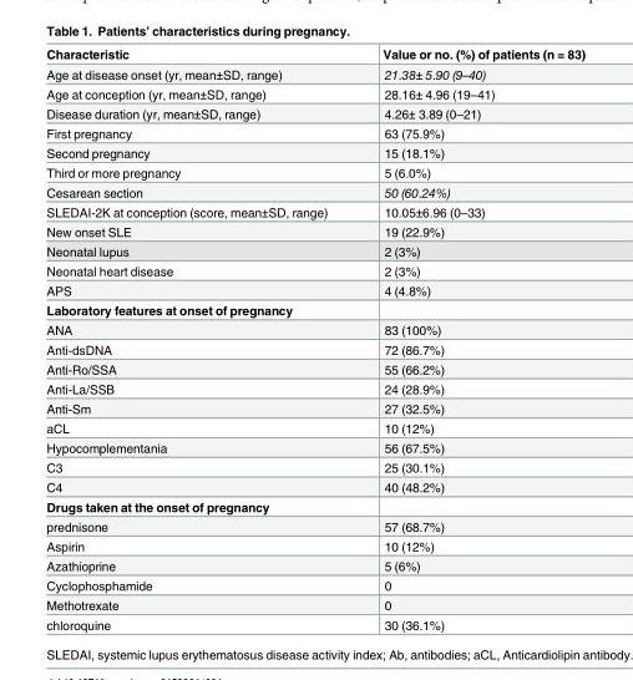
<table><thead><tr><td>Characteristic</td><td>Value or no. (%) of patients (n = 83)</td></tr></thead><tbody><tr><td>Age at disease onset (yr, mean±SD, range)</td><td>21.38± 5.90 (9–40)</td></tr><tr><td>Age at conception (yr, mean±SD, range)</td><td>28.16± 4.96 (19–41)</td></tr><tr><td>Disease duration (yr, mean±SD, range)</td><td>4.26± 3.89 (0–21)</td></tr><tr><td>First pregnancy</td><td>63 (75.9%)</td></tr><tr><td>Second pregnancy</td><td>15 (18.1%)</td></tr><tr><td>Third or more pregnancy</td><td>5 (6.0%)</td></tr><tr><td>Cesarean section</td><td>50 (60.24%)</td></tr><tr><td>SLEDAI-2K at conception (score, mean±SD, range)</td><td>10.05±6.96 (0–33)</td></tr><tr><td>New onset SLE</td><td>19 (22.9%)</td></tr><tr><td>Neonatal lupus</td><td>2 (3%)</td></tr><tr><td>Neonatal heart disease</td><td>2 (3%)</td></tr><tr><td>APS</td><td>4 (4.8%)</td></tr><tr><td colspan="2">Laboratory features at onset of pregnancy</td></tr><tr><td>ANA</td><td>83 (100%)</td></tr><tr><td>Anti-dsDNA</td><td>72 (86.7%)</td></tr><tr><td>Anti-Ro/SSA</td><td>55 (66.2%)</td></tr><tr><td>Anti-La/SSB</td><td>24 (28.9%)</td></tr><tr><td>Anti-Sm</td><td>27 (32.5%)</td></tr><tr><td>aCL</td><td>10 (12%)</td></tr><tr><td>Hypocomplementania</td><td>56 (67.5%)</td></tr><tr><td>C3</td><td>25 (30.1%)</td></tr><tr><td>C4</td><td>40 (48.2%)</td></tr><tr><td colspan="2">Drugs taken at the onset of pregnancy</td></tr><tr><td>prednisone</td><td>57 (68.7%)</td></tr><tr><td>Aspirin</td><td>10 (12%)</td></tr><tr><td>Azathioprine</td><td>5 (6%)</td></tr><tr><td>Cyclophosphamide</td><td>0</td></tr><tr><td>Methotrexate</td><td>0</td></tr><tr><td>chloroquine</td><td>30 (36.1%)</td></tr></tbody></table>